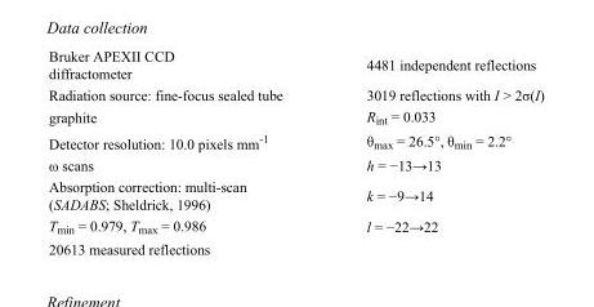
<table><tbody><tr><td>Bruker APEXII CCD diffractometer</td><td>4481 independent reflections</td></tr><tr><td>Radiation source: fine-focus sealed tube</td><td>3019 reflections with I &gt; 2σ(I)</td></tr><tr><td>graphite</td><td>R<sub>int</sub> = 0.033</td></tr><tr><td>Detector resolution: 10.0 pixels mm<sup>-1</sup></td><td>θ<sub>max</sub> = 26.5°, θ<sub>min</sub> = 2.2°</td></tr><tr><td>ω scans</td><td>h = −13→13</td></tr><tr><td>Absorption correction: multi-scan (SADABS; Sheldrick, 1996)</td><td>k = −9→14</td></tr><tr><td>T<sub>min</sub> = 0.979, T<sub>max</sub> = 0.986</td><td>l = −22→22</td></tr><tr><td>20613 measured reflections</td><td></td></tr></tbody></table>